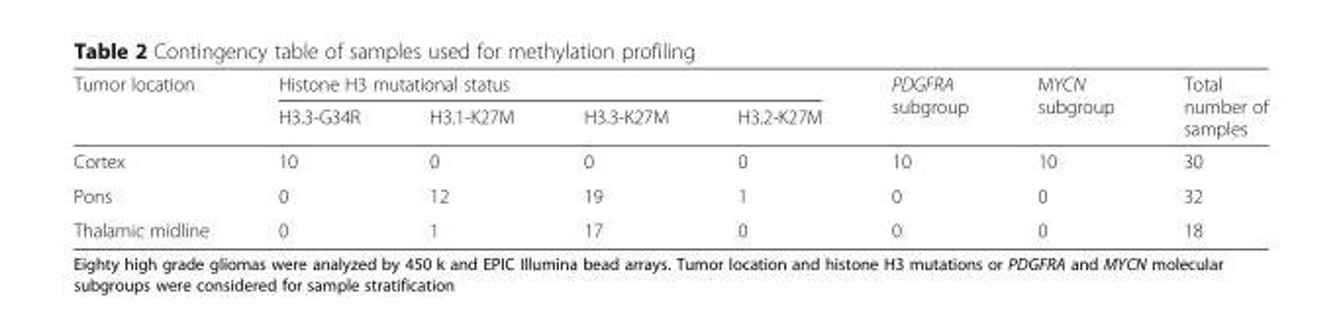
<table><thead><tr><td rowspan="2">Tumor location</td><td colspan="4">Histone H3 mutational status</td><td rowspan="2">PDGFRA subgroup</td><td rowspan="2">MYCN subgroup</td><td rowspan="2">Total number of samples</td></tr><tr><td>H3.3-G34R</td><td>H3.1-K27M</td><td>H3.3-K27M</td><td>H3.2-K27M</td></tr></thead><tbody><tr><td>Cortex</td><td>10</td><td>0</td><td>0</td><td>0</td><td>10</td><td>10</td><td>30</td></tr><tr><td>Pons</td><td>0</td><td>12</td><td>19</td><td>1</td><td>0</td><td>0</td><td>32</td></tr><tr><td>Thalamic midline</td><td>0</td><td>1</td><td>17</td><td>0</td><td>0</td><td>0</td><td>18</td></tr></tbody></table>